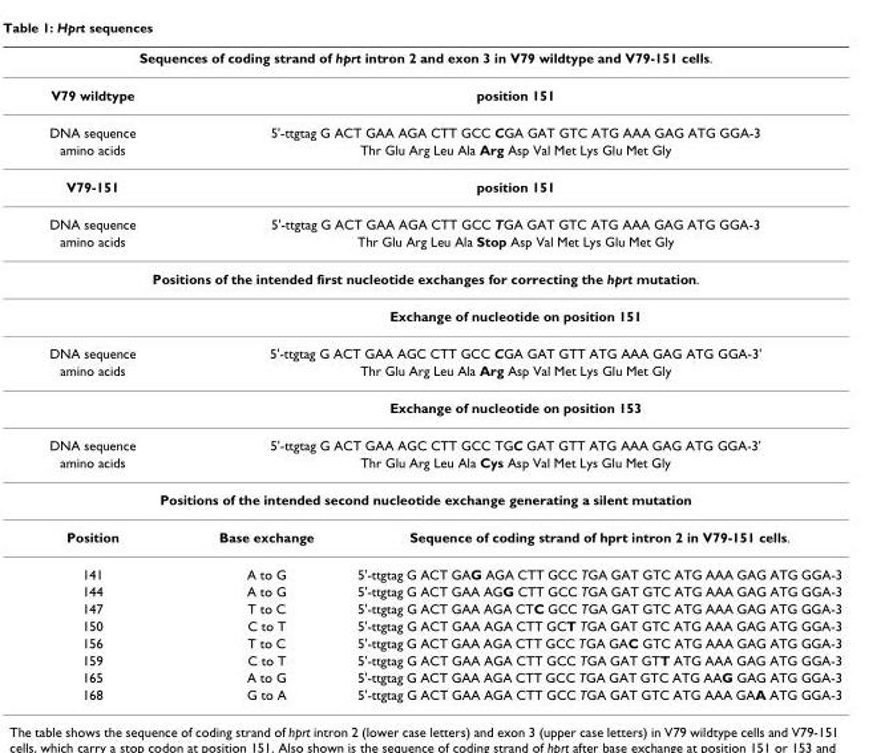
<table><thead><tr><td colspan="3">Sequences of coding strand of hprt intron 2 and exon 3 in V79 wildtype and V79-151 cells.</td></tr></thead><tbody><tr><td>V79 wildtype</td><td colspan="2">position 151</td></tr><tr><td>DNA sequence</td><td colspan="2">5&#x27;-ttgtag G ACT GAA AGA CTT GCC CGA GAT GTC ATG AAA GAG ATG GGA-3</td></tr><tr><td>amino acids</td><td colspan="2">Thr Glu Arg Leu Ala Arg Asp Val Met Lys Glu Met Gly</td></tr><tr><td>V79-151</td><td colspan="2">position 151</td></tr><tr><td>DNA sequence</td><td colspan="2">5&#x27;-ttgtag G ACT GAA AGA CTT GCC TGA GAT GTC ATG AAA GAG ATG GGA-3</td></tr><tr><td>amino acids</td><td colspan="2">Thr Glu Arg Leu Ala Stop Asp Val Met Lys Glu Met Gly</td></tr><tr><td colspan="3">Positions of the intended first nucleotide exchanges for correcting the hprt mutation.</td></tr><tr><td></td><td colspan="2">Exchange of nucleotide on position 151</td></tr><tr><td>DNA sequence</td><td colspan="2">5&#x27;-ttgtag G ACT GAA AGC CTT GCC CGA GAT GTT ATG AAA GAG ATG GGA-3&#x27;</td></tr><tr><td rowspan="2">amino acids</td><td colspan="2">Thr Glu Arg Leu Ala Arg Asp Val Met Lys Glu Met Gly</td></tr><tr><td colspan="2">Exchange of nucleotide on position 153</td></tr><tr><td>DNA sequence</td><td colspan="2">5&#x27;-ttgtag G ACT GAA AGC CTT GCC TGC GAT GTT ATG AAA GAG ATG GGA-3&#x27;</td></tr><tr><td>amino acids</td><td colspan="2">Thr Glu Arg Leu Ala Cys Asp Val Met Lys Glu Met Gly</td></tr><tr><td colspan="3">Positions of the intended second nucleotide exchange generating a silent mutation</td></tr><tr><td>Position</td><td>Base exchange</td><td>Sequence of coding strand of hprt intron 2 in V79-151 cells.</td></tr><tr><td>141</td><td>A to G</td><td>5&#x27;-ttgtag G ACT GAG AGA CTT GCC TGA GAT GTC ATG AAA GAG ATG GGA-3</td></tr><tr><td>144</td><td>A to G</td><td>5&#x27;-ttgtag G ACT GAA AGG CTT GCC TGA GAT GTC ATG AAA GAG ATG GGA-3</td></tr><tr><td>147</td><td>T to C</td><td>5&#x27;-ttgtag G ACT GAA AGA CTC GCC TGA GAT GTC ATG AAA GAG ATG GGA-3</td></tr><tr><td>150</td><td>C to T</td><td>5&#x27;-ttgtag G ACT GAA AGA CTT GCT TGA GAT GTC ATG AAA GAG ATG GGA-3</td></tr><tr><td>156</td><td>T to C</td><td>5&#x27;-ttgtag G ACT GAA AGA CTT GCC TGA GAC GTC ATG AAA GAG ATG GGA-3</td></tr><tr><td>159</td><td>C to T</td><td>5&#x27;-ttgtag G ACT GAA AGA CTT GCC TGA GAT GTT ATG AAA GAG ATG GGA-3</td></tr><tr><td>165</td><td>A to G</td><td>5&#x27;-ttgtag G ACT GAA AGA CTT GCC TGA GAT GTC ATG AAG GAG ATG GGA-3</td></tr><tr><td>168</td><td>G to A</td><td>5&#x27;-ttgtag G ACT GAA AGA CTT GCC TGA GAT GTC ATG AAA GAA ATG GGA-3</td></tr></tbody></table>